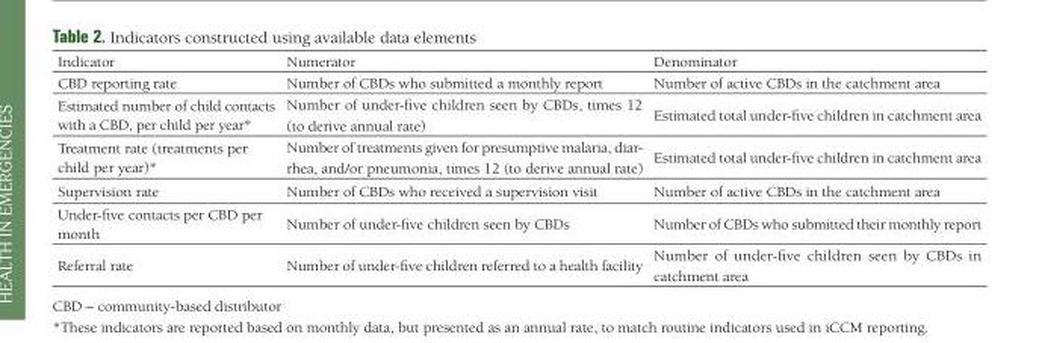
<table><thead><tr><td>Indicator</td><td>Numerator</td><td>Denominator</td></tr></thead><tbody><tr><td>CBD reporting rate</td><td>Number of CBDs who submitted a monthly report</td><td>Number of active CBDs in the catchment area</td></tr><tr><td>Estimated number of child contacts with a CBD, per child per year*</td><td>Number of under-five children seen by CBDs, times 12 (to derive annual rate)</td><td>Estimated total under-five children in catchment area</td></tr><tr><td>Treatment rate (treatments per child per year)*</td><td>Number of treatments given for presumptive malaria, diar- rhea, and/or pneumonia, times 12 (to derive annual rate)</td><td>Estimated total under-five children in catchment area</td></tr><tr><td>Supervision rate</td><td>Number of CBDs who received a supervision visit</td><td>Number of active CBDs in the catchment area</td></tr><tr><td>Under-five contacts per CBD per month</td><td>Number of under-five children seen by CBDs</td><td>Number of CBDs who submitted their monthly report</td></tr><tr><td>Referral rate</td><td>Number of under-five children referred to a health facility</td><td>Number of under-five children seen by CBDs in catchment area</td></tr></tbody></table>